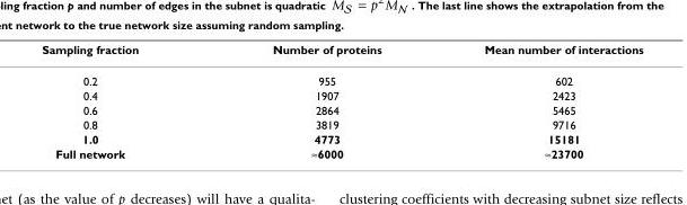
<table><thead><tr><td>Sampling fraction</td><td>Number of proteins</td><td>Mean number of interactions</td></tr></thead><tbody><tr><td>0.2</td><td>955</td><td>602</td></tr><tr><td>0.4</td><td>1907</td><td>2423</td></tr><tr><td>0.6</td><td>2864</td><td>5465</td></tr><tr><td>0.8</td><td>3819</td><td>9716</td></tr><tr><td>1.0</td><td>4773</td><td>15181</td></tr><tr><td>Full network</td><td>≈6000</td><td>≈23700</td></tr></tbody></table>